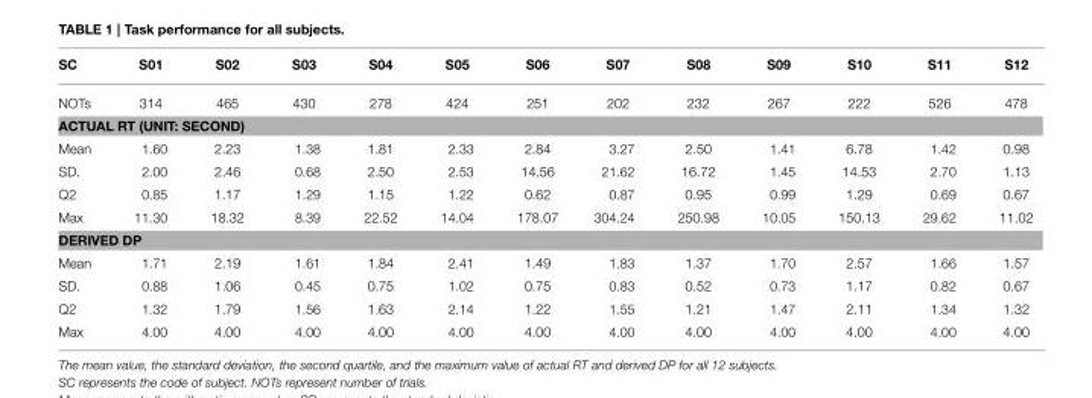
<table><thead><tr><td>SC</td><td>S01</td><td>S02</td><td>S03</td><td>S04</td><td>S05</td><td>S06</td><td>S07</td><td>S08</td><td>S09</td><td>S10</td><td>S11</td><td>S12</td></tr></thead><tbody><tr><td>NOTs</td><td>314</td><td>465</td><td>430</td><td>278</td><td>424</td><td>251</td><td>202</td><td>232</td><td>267</td><td>222</td><td>526</td><td>478</td></tr><tr><td colspan="13">ACTUAL RT (UNIT: SECOND)</td></tr><tr><td>Mean</td><td>1.60</td><td>2.23</td><td>1.38</td><td>1.81</td><td>2.33</td><td>2.84</td><td>3.27</td><td>2.50</td><td>1.41</td><td>6.78</td><td>1.42</td><td>0.98</td></tr><tr><td>SD.</td><td>2.00</td><td>2.46</td><td>0.68</td><td>2.50</td><td>2.53</td><td>14.56</td><td>21.62</td><td>16.72</td><td>1.45</td><td>14.53</td><td>2.70</td><td>1.13</td></tr><tr><td>Q2</td><td>0.85</td><td>1.17</td><td>1.29</td><td>1.15</td><td>1.22</td><td>0.62</td><td>0.87</td><td>0.95</td><td>0.99</td><td>1.29</td><td>0.69</td><td>0.67</td></tr><tr><td>Max</td><td>11.30</td><td>18.32</td><td>8.39</td><td>22.52</td><td>14.04</td><td>178.07</td><td>304.24</td><td>250.98</td><td>10.05</td><td>150.13</td><td>29.62</td><td>11.02</td></tr><tr><td colspan="13">DERIVED DP</td></tr><tr><td>Mean</td><td>1.71</td><td>2.19</td><td>1.61</td><td>1.84</td><td>2.41</td><td>1.49</td><td>1.83</td><td>1.37</td><td>1.70</td><td>2.57</td><td>1.66</td><td>1.57</td></tr><tr><td>SD.</td><td>0.88</td><td>1.06</td><td>0.45</td><td>0.75</td><td>1.02</td><td>0.75</td><td>0.83</td><td>0.52</td><td>0.73</td><td>1.17</td><td>0.82</td><td>0.67</td></tr><tr><td>Q2</td><td>1.32</td><td>1.79</td><td>1.56</td><td>1.63</td><td>2.14</td><td>1.22</td><td>1.55</td><td>1.21</td><td>1.47</td><td>2.11</td><td>1.34</td><td>1.32</td></tr><tr><td>Max</td><td>4.00</td><td>4.00</td><td>4.00</td><td>4.00</td><td>4.00</td><td>4.00</td><td>4.00</td><td>4.00</td><td>4.00</td><td>4.00</td><td>4.00</td><td>4.00</td></tr></tbody></table>